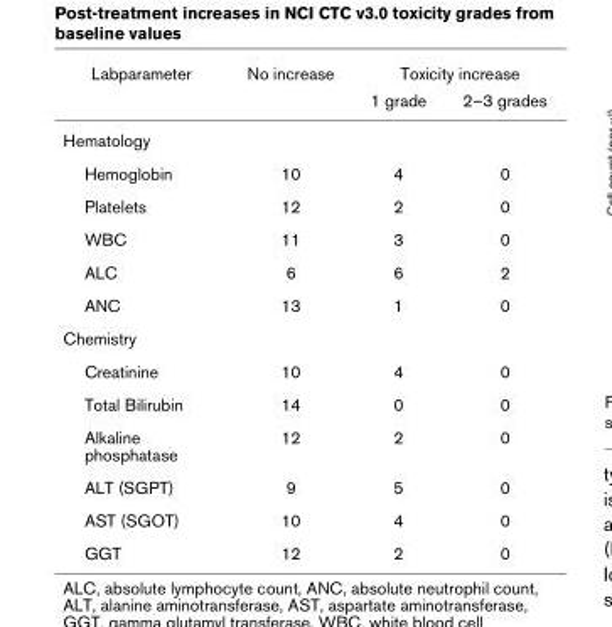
<table><thead><tr><td rowspan="2">Labparameter</td><td rowspan="2">No increase</td><td colspan="2">Toxicity increase</td></tr><tr><td>1 grade</td><td>2–3 grades</td></tr></thead><tbody><tr><td colspan="4">Hematology</td></tr><tr><td>Hemoglobin</td><td>10</td><td>4</td><td>0</td></tr><tr><td>Platelets</td><td>12</td><td>2</td><td>0</td></tr><tr><td>WBC</td><td>11</td><td>3</td><td>0</td></tr><tr><td>ALC</td><td>6</td><td>6</td><td>2</td></tr><tr><td>ANC</td><td>13</td><td>1</td><td>0</td></tr><tr><td colspan="4">Chemistry</td></tr><tr><td>Creatinine</td><td>10</td><td>4</td><td>0</td></tr><tr><td>Total Bilirubin</td><td>14</td><td>0</td><td>0</td></tr><tr><td>Alkaline phosphatase</td><td>12</td><td>2</td><td>0</td></tr><tr><td>ALT (SGPT)</td><td>9</td><td>5</td><td>0</td></tr><tr><td>AST (SGOT)</td><td>10</td><td>4</td><td>0</td></tr><tr><td>GGT</td><td>12</td><td>2</td><td>0</td></tr></tbody></table>